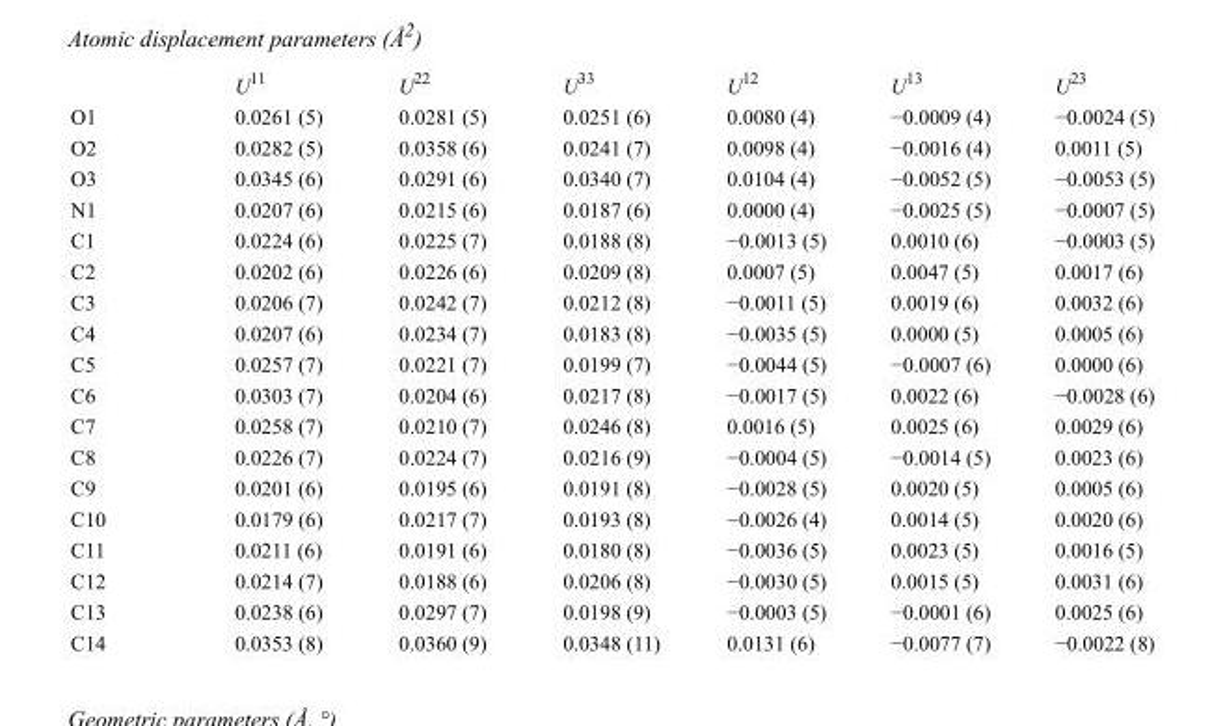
<table><thead><tr><td></td><td>U<sup>11</sup></td><td>U<sup>22</sup></td><td>U<sup>33</sup></td><td>U<sup>12</sup></td><td>U<sup>13</sup></td><td>U<sup>23</sup></td></tr></thead><tbody><tr><td>O1</td><td>0.0261 (5)</td><td>0.0281 (5)</td><td>0.0251 (6)</td><td>0.0080 (4)</td><td>−0.0009 (4)</td><td>−0.0024 (5)</td></tr><tr><td>O2</td><td>0.0282 (5)</td><td>0.0358 (6)</td><td>0.0241 (7)</td><td>0.0098 (4)</td><td>−0.0016 (4)</td><td>0.0011 (5)</td></tr><tr><td>O3</td><td>0.0345 (6)</td><td>0.0291 (6)</td><td>0.0340 (7)</td><td>0.0104 (4)</td><td>−0.0052 (5)</td><td>−0.0053 (5)</td></tr><tr><td>N1</td><td>0.0207 (6)</td><td>0.0215 (6)</td><td>0.0187 (6)</td><td>0.0000 (4)</td><td>−0.0025 (5)</td><td>−0.0007 (5)</td></tr><tr><td>C1</td><td>0.0224 (6)</td><td>0.0225 (7)</td><td>0.0188 (8)</td><td>−0.0013 (5)</td><td>0.0010 (6)</td><td>−0.0003 (5)</td></tr><tr><td>C2</td><td>0.0202 (6)</td><td>0.0226 (6)</td><td>0.0209 (8)</td><td>0.0007 (5)</td><td>0.0047 (5)</td><td>0.0017 (6)</td></tr><tr><td>C3</td><td>0.0206 (7)</td><td>0.0242 (7)</td><td>0.0212 (8)</td><td>−0.0011 (5)</td><td>0.0019 (6)</td><td>0.0032 (6)</td></tr><tr><td>C4</td><td>0.0207 (6)</td><td>0.0234 (7)</td><td>0.0183 (8)</td><td>−0.0035 (5)</td><td>0.0000 (5)</td><td>0.0005 (6)</td></tr><tr><td>C5</td><td>0.0257 (7)</td><td>0.0221 (7)</td><td>0.0199 (7)</td><td>−0.0044 (5)</td><td>−0.0007 (6)</td><td>0.0000 (6)</td></tr><tr><td>C6</td><td>0.0303 (7)</td><td>0.0204 (6)</td><td>0.0217 (8)</td><td>−0.0017 (5)</td><td>0.0022 (6)</td><td>−0.0028 (6)</td></tr><tr><td>C7</td><td>0.0258 (7)</td><td>0.0210 (7)</td><td>0.0246 (8)</td><td>0.0016 (5)</td><td>0.0025 (6)</td><td>0.0029 (6)</td></tr><tr><td>C8</td><td>0.0226 (7)</td><td>0.0224 (7)</td><td>0.0216 (9)</td><td>−0.0004 (5)</td><td>−0.0014 (5)</td><td>0.0023 (6)</td></tr><tr><td>C9</td><td>0.0201 (6)</td><td>0.0195 (6)</td><td>0.0191 (8)</td><td>−0.0028 (5)</td><td>0.0020 (5)</td><td>0.0005 (6)</td></tr><tr><td>C10</td><td>0.0179 (6)</td><td>0.0217 (7)</td><td>0.0193 (8)</td><td>−0.0026 (4)</td><td>0.0014 (5)</td><td>0.0020 (6)</td></tr><tr><td>C11</td><td>0.0211 (6)</td><td>0.0191 (6)</td><td>0.0180 (8)</td><td>−0.0036 (5)</td><td>0.0023 (5)</td><td>0.0016 (5)</td></tr><tr><td>C12</td><td>0.0214 (7)</td><td>0.0188 (6)</td><td>0.0206 (8)</td><td>−0.0030 (5)</td><td>0.0015 (5)</td><td>0.0031 (6)</td></tr><tr><td>C13</td><td>0.0238 (6)</td><td>0.0297 (7)</td><td>0.0198 (9)</td><td>−0.0003 (5)</td><td>−0.0001 (6)</td><td>0.0025 (6)</td></tr><tr><td>C14</td><td>0.0353 (8)</td><td>0.0360 (9)</td><td>0.0348 (11)</td><td>0.0131 (6)</td><td>−0.0077 (7)</td><td>−0.0022 (8)</td></tr></tbody></table>